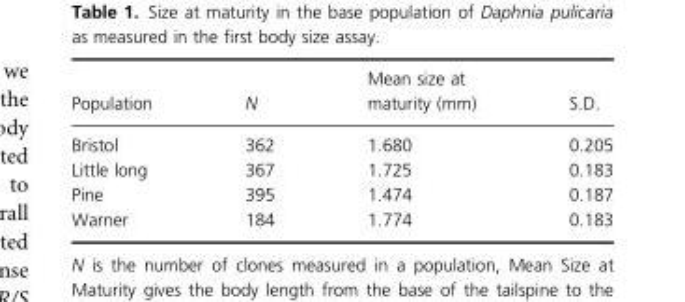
<table><thead><tr><td>Population</td><td>N</td><td>Mean size at maturity (mm)</td><td>S.D.</td></tr></thead><tbody><tr><td>Bristol</td><td>362</td><td>1.680</td><td>0.205</td></tr><tr><td>Little long</td><td>367</td><td>1.725</td><td>0.183</td></tr><tr><td>Pine</td><td>395</td><td>1.474</td><td>0.187</td></tr><tr><td>Warner</td><td>184</td><td>1.774</td><td>0.183</td></tr></tbody></table>